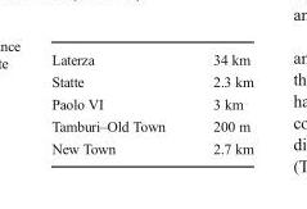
<table><tbody><tr><td>Laterza</td><td>34 km</td></tr><tr><td>Statte</td><td>2.3 km</td></tr><tr><td>Paolo VI</td><td>3 km</td></tr><tr><td>Tamburi–Old Town</td><td>200 m</td></tr><tr><td>New Town</td><td>2.7 km</td></tr></tbody></table>